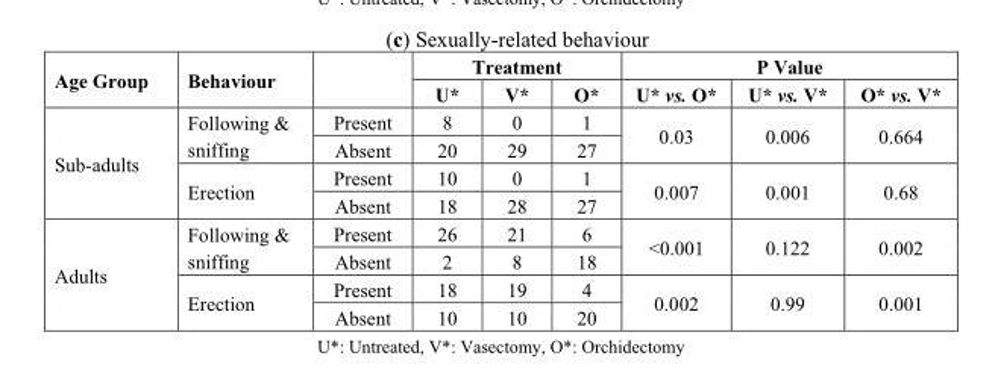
<table><thead><tr><td rowspan="2">Age Group</td><td rowspan="2">Behaviour</td><td rowspan="2"></td><td colspan="3">Treatment</td><td colspan="3">P Value</td></tr><tr><td>U*</td><td>V*</td><td>O*</td><td>U* vs. O*</td><td>U* vs. V*</td><td>O* vs. V*</td></tr></thead><tbody><tr><td rowspan="4">Sub-adults</td><td rowspan="2">Following &amp; sniffing</td><td>Present</td><td>8</td><td>0</td><td>1</td><td rowspan="2">0.03</td><td rowspan="2">0.006</td><td rowspan="2">0.664</td></tr><tr><td>Absent</td><td>20</td><td>29</td><td>27</td></tr><tr><td rowspan="2">Erection</td><td>Present</td><td>10</td><td>0</td><td>1</td><td rowspan="2">0.007</td><td rowspan="2">0.001</td><td rowspan="2">0.68</td></tr><tr><td>Absent</td><td>18</td><td>28</td><td>27</td></tr><tr><td rowspan="4">Adults</td><td rowspan="2">Following &amp; sniffing</td><td>Present</td><td>26</td><td>21</td><td>6</td><td rowspan="2">&lt;0.001</td><td rowspan="2">0.122</td><td rowspan="2">0.002</td></tr><tr><td>Absent</td><td>2</td><td>8</td><td>18</td></tr><tr><td rowspan="2">Erection</td><td>Present</td><td>18</td><td>19</td><td>4</td><td rowspan="2">0.002</td><td rowspan="2">0.99</td><td rowspan="2">0.001</td></tr><tr><td>Absent</td><td>10</td><td>10</td><td>20</td></tr></tbody></table>